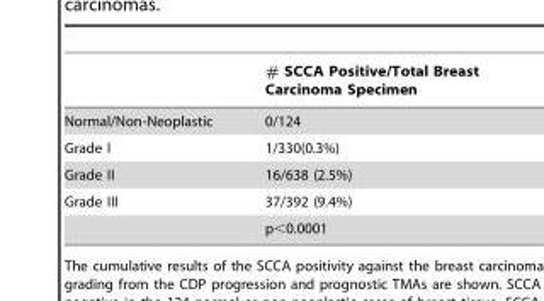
<table><thead><tr><td></td><td># SCCA Positive/Total Breast Carcinoma Specimen</td></tr></thead><tbody><tr><td>Normal/Non-Neoplastic</td><td>0/124</td></tr><tr><td>Grade I</td><td>1/330(0.3%)</td></tr><tr><td>Grade II</td><td>16/638 (2.5%)</td></tr><tr><td rowspan="2">Grade III</td><td>37/392 (9.4%)</td></tr><tr><td>p&lt;0.0001</td></tr></tbody></table>